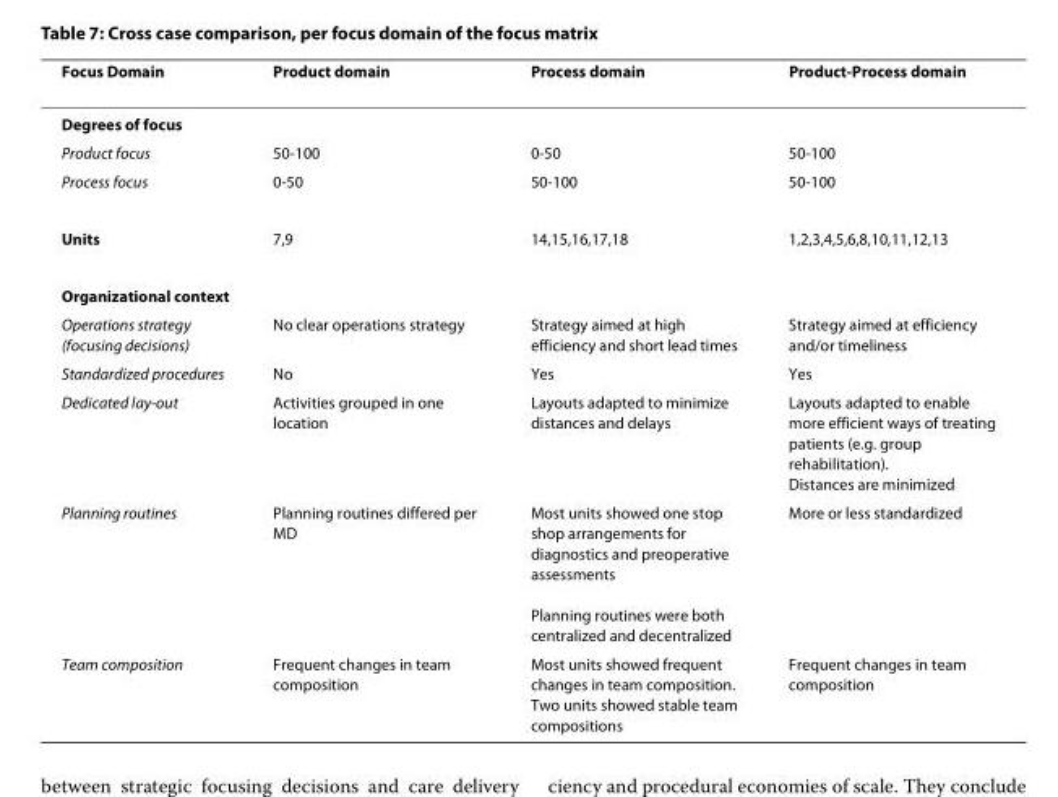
<table><thead><tr><td>Focus Domain</td><td>Product domain</td><td>Process domain</td><td>Product-Process domain</td></tr></thead><tbody><tr><td colspan="4">Degrees of focus</td></tr><tr><td>Product focus</td><td>50-100</td><td>0-50</td><td>50-100</td></tr><tr><td>Process focus</td><td>0-50</td><td>50-100</td><td>50-100</td></tr><tr><td>Units</td><td>7,9</td><td>14,15,16,17,18</td><td>1,2,3,4,5,6,8,10,11,12,13</td></tr><tr><td colspan="4">Organizational context</td></tr><tr><td>Operations strategy (focusing decisions)</td><td>No clear operations strategy</td><td>Strategy aimed at high efficiency and short lead times</td><td>Strategy aimed at efficiency and/or timeliness</td></tr><tr><td>Standardized procedures</td><td>No</td><td>Yes</td><td>Yes</td></tr><tr><td>Dedicated lay-out</td><td>Activities grouped in one location</td><td>Layouts adapted to minimize distances and delays</td><td>Layouts adapted to enable more efficient ways of treating patients (e.g. group rehabilitation). Distances are minimized</td></tr><tr><td>Planning routines</td><td>Planning routines differed per MD</td><td>Most units showed one stop shop arrangements for diagnostics and preoperative assessments Planning routines were both centralized and decentralized</td><td>More or less standardized</td></tr><tr><td>Team composition</td><td>Frequent changes in team composition</td><td>Most units showed frequent changes in team composition. Two units showed stable team compositions</td><td>Frequent changes in team composition</td></tr></tbody></table>